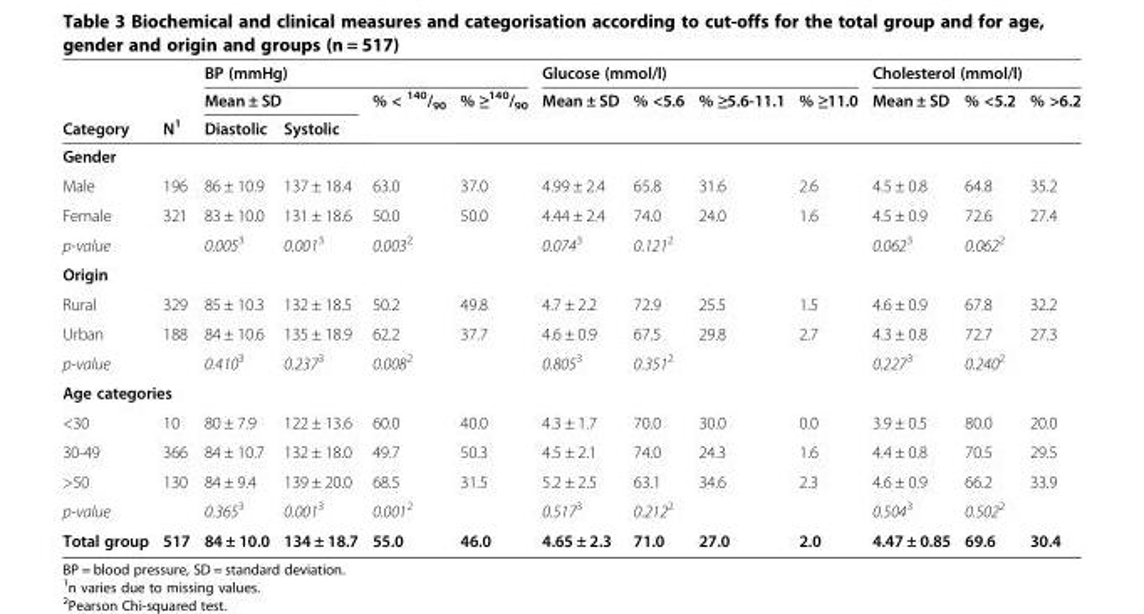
<table><thead><tr><td rowspan="3">Category</td><td rowspan="3">N<sup>1</sup></td><td colspan="4">BP (mmHg)</td><td colspan="4">Glucose (mmol/l)</td><td colspan="3">Cholesterol (mmol/l)</td></tr><tr><td colspan="2">Mean ± SD</td><td rowspan="2">% &lt; <sup>140</sup>/<sub>90</sub></td><td rowspan="2">% ≥<sup>140</sup>/<sub>90</sub></td><td rowspan="2">Mean ± SD</td><td rowspan="2">% &lt;5.6</td><td rowspan="2">% ≥5.6-11.1</td><td rowspan="2">% ≥11.0</td><td rowspan="2">Mean ± SD</td><td rowspan="2">% &lt;5.2</td><td rowspan="2">% &gt;6.2</td></tr><tr><td>Diastolic</td><td>Systolic</td></tr></thead><tbody><tr><td colspan="13">Gender</td></tr><tr><td>Male</td><td>196</td><td>86 ± 10.9</td><td>137 ± 18.4</td><td>63.0</td><td>37.0</td><td>4.99 ± 2.4</td><td>65.8</td><td>31.6</td><td>2.6</td><td>4.5 ± 0.8</td><td>64.8</td><td>35.2</td></tr><tr><td>Female</td><td>321</td><td>83 ± 10.0</td><td>131 ± 18.6</td><td>50.0</td><td>50.0</td><td>4.44 ± 2.4</td><td>74.0</td><td>24.0</td><td>1.6</td><td>4.5 ± 0.9</td><td>72.6</td><td>27.4</td></tr><tr><td>p-value</td><td></td><td>0.005<sup>3</sup></td><td>0.001<sup>3</sup></td><td colspan="2">0.003<sup>2</sup></td><td>0.074<sup>3</sup></td><td colspan="3">0.121<sup>2</sup></td><td>0.062<sup>3</sup></td><td colspan="2">0.062<sup>2</sup></td></tr><tr><td colspan="13">Origin</td></tr><tr><td>Rural</td><td>329</td><td>85 ± 10.3</td><td>132 ± 18.5</td><td>50.2</td><td>49.8</td><td>4.7 ± 2.2</td><td>72.9</td><td>25.5</td><td>1.5</td><td>4.6 ± 0.9</td><td>67.8</td><td>32.2</td></tr><tr><td>Urban</td><td>188</td><td>84 ± 10.6</td><td>135 ± 18.9</td><td>62.2</td><td>37.7</td><td>4.6 ± 0.9</td><td>67.5</td><td>29.8</td><td>2.7</td><td>4.3 ± 0.8</td><td>72.7</td><td>27.3</td></tr><tr><td>p-value</td><td></td><td>0.410<sup>3</sup></td><td>0.237<sup>3</sup></td><td colspan="2">0.008<sup>2</sup></td><td>0.805<sup>3</sup></td><td colspan="3">0.351<sup>2</sup></td><td>0.227<sup>3</sup></td><td colspan="2">0.240<sup>2</sup></td></tr><tr><td colspan="13">Age categories</td></tr><tr><td>&lt;30</td><td>10</td><td>80 ± 7.9</td><td>122 ± 13.6</td><td>60.0</td><td>40.0</td><td>4.3 ± 1.7</td><td>70.0</td><td>30.0</td><td>0.0</td><td>3.9 ± 0.5</td><td>80.0</td><td>20.0</td></tr><tr><td>30-49</td><td>366</td><td>84 ± 10.7</td><td>132 ± 18.0</td><td>49.7</td><td>50.3</td><td>4.5 ± 2.1</td><td>74.0</td><td>24.3</td><td>1.6</td><td>4.4 ± 0.8</td><td>70.5</td><td>29.5</td></tr><tr><td>&gt;50</td><td>130</td><td>84 ± 9.4</td><td>139 ± 20.0</td><td>68.5</td><td>31.5</td><td>5.2 ± 2.5</td><td>63.1</td><td>34.6</td><td>2.3</td><td>4.6 ± 0.9</td><td>66.2</td><td>33.9</td></tr><tr><td>p-value</td><td></td><td>0.365<sup>3</sup></td><td>0.001<sup>3</sup></td><td colspan="2">0.001<sup>2</sup></td><td>0.517<sup>3</sup></td><td colspan="3">0.212<sup>2</sup></td><td>0.504<sup>3</sup></td><td colspan="2">0.502<sup>2</sup></td></tr><tr><td>Total group</td><td>517</td><td>84 ± 10.0</td><td>134 ± 18.7</td><td>55.0</td><td>46.0</td><td>4.65 ± 2.3</td><td>71.0</td><td>27.0</td><td>2.0</td><td>4.47 ± 0.85</td><td>69.6</td><td>30.4</td></tr></tbody></table>